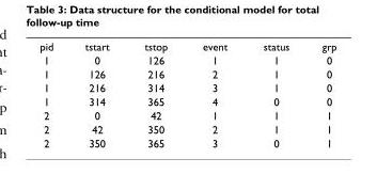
<table><tbody><tr><td>pid</td><td>tstart</td><td>tstop</td><td>event</td><td>status</td><td>grp</td></tr><tr><td>1</td><td>0</td><td>126</td><td>1</td><td>1</td><td>0</td></tr><tr><td>1</td><td>126</td><td>216</td><td>2</td><td>1</td><td>0</td></tr><tr><td>1</td><td>216</td><td>314</td><td>3</td><td>1</td><td>0</td></tr><tr><td>1</td><td>314</td><td>365</td><td>4</td><td>0</td><td>0</td></tr><tr><td>2</td><td>0</td><td>42</td><td>1</td><td>1</td><td>1</td></tr><tr><td>2</td><td>42</td><td>350</td><td>2</td><td>1</td><td>1</td></tr><tr><td>2</td><td>350</td><td>365</td><td>3</td><td>0</td><td>1</td></tr></tbody></table>